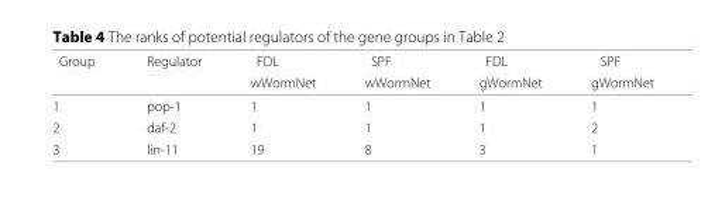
<table><thead><tr><td rowspan="2">Group</td><td rowspan="2">Regulator</td><td rowspan="2">FDL wWormNet</td><td rowspan="2">SPF wWormNet</td><td rowspan="2">FDL gWormNet</td><td rowspan="2">SPF gWormNet</td></tr><tr></tr></thead><tbody><tr><td>1</td><td>pop-1</td><td>1</td><td>1</td><td>1</td><td>1</td></tr><tr><td>2</td><td>daf-2</td><td>1</td><td>1</td><td>1</td><td>2</td></tr><tr><td>3</td><td>lin-11</td><td>19</td><td>8</td><td>3</td><td>1</td></tr></tbody></table>